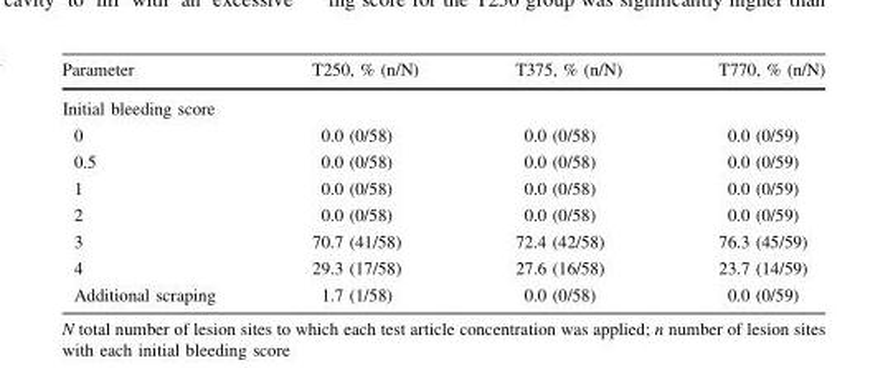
<table><thead><tr><td>Parameter</td><td>T250, % (n/N)</td><td>T375, % (n/N)</td><td>T770, % (n/N)</td></tr></thead><tbody><tr><td colspan="4">Initial bleeding score</td></tr><tr><td>0</td><td>0.0 (0/58)</td><td>0.0 (0/58)</td><td>0.0 (0/59)</td></tr><tr><td>0.5</td><td>0.0 (0/58)</td><td>0.0 (0/58)</td><td>0.0 (0/59)</td></tr><tr><td>1</td><td>0.0 (0/58)</td><td>0.0 (0/58)</td><td>0.0 (0/59)</td></tr><tr><td>2</td><td>0.0 (0/58)</td><td>0.0 (0/58)</td><td>0.0 (0/59)</td></tr><tr><td>3</td><td>70.7 (41/58)</td><td>72.4 (42/58)</td><td>76.3 (45/59)</td></tr><tr><td>4</td><td>29.3 (17/58)</td><td>27.6 (16/58)</td><td>23.7 (14/59)</td></tr><tr><td>Additional scraping</td><td>1.7 (1/58)</td><td>0.0 (0/58)</td><td>0.0 (0/59)</td></tr></tbody></table>